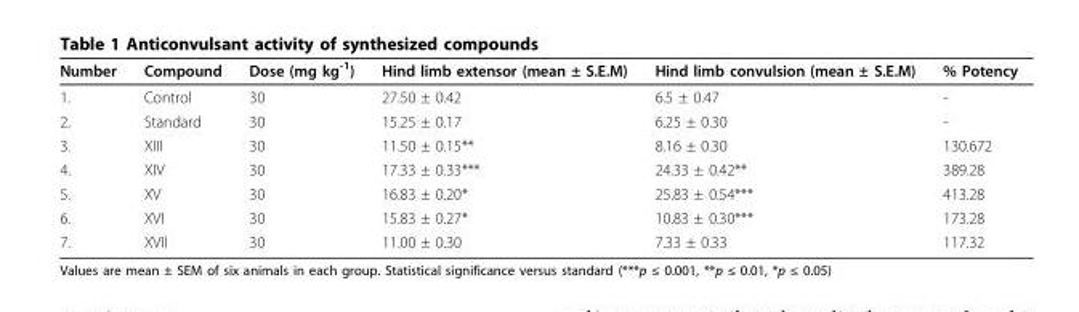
<table><thead><tr><td>Number</td><td>Compound</td><td>Dose (mg kg<sup>-1</sup>)</td><td>Hind limb extensor (mean ± S.E.M)</td><td>Hind limb convulsion (mean ± S.E.M)</td><td>% Potency</td></tr></thead><tbody><tr><td>1.</td><td>Control</td><td>30</td><td>27.50 ± 0.42</td><td>6.5 ± 0.47</td><td>-</td></tr><tr><td>2.</td><td>Standard</td><td>30</td><td>15.25 ± 0.17</td><td>6.25 ± 0.30</td><td>-</td></tr><tr><td>3.</td><td>XIII</td><td>30</td><td>11.50 ± 0.15**</td><td>8.16 ± 0.30</td><td>130.672</td></tr><tr><td>4.</td><td>XIV</td><td>30</td><td>17.33 ± 0.33***</td><td>24.33 ± 0.42**</td><td>389.28</td></tr><tr><td>5.</td><td>XV</td><td>30</td><td>16.83 ± 0.20*</td><td>25.83 ± 0.54***</td><td>413.28</td></tr><tr><td>6.</td><td>XVI</td><td>30</td><td>15.83 ± 0.27*</td><td>10.83 ± 0.30***</td><td>173.28</td></tr><tr><td>7.</td><td>XVII</td><td>30</td><td>11.00 ± 0.30</td><td>7.33 ± 0.33</td><td>117.32</td></tr></tbody></table>